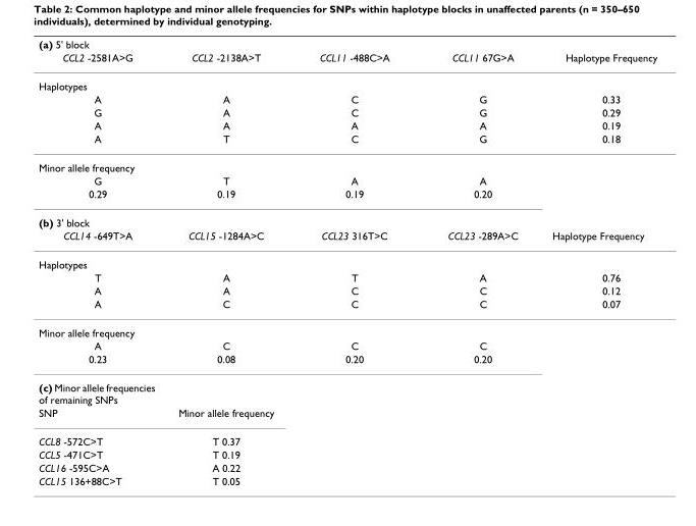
<table><thead><tr><td colspan="5">(a) 5&#x27; block</td></tr><tr><td>CCL2 -2581A&gt;G</td><td>CCL2 -2138A&gt;T</td><td>CCL11 -488C&gt;A</td><td>CCL11 67G&gt;A</td><td>Haplotype Frequency</td></tr></thead><tbody><tr><td colspan="5">Haplotypes</td></tr><tr><td>A</td><td>A</td><td>C</td><td>G</td><td>0.33</td></tr><tr><td>G</td><td>A</td><td>C</td><td>G</td><td>0.29</td></tr><tr><td>A</td><td>A</td><td>A</td><td>A</td><td>0.19</td></tr><tr><td>A</td><td>T</td><td>C</td><td>G</td><td>0.18</td></tr><tr><td colspan="5">Minor allele frequency</td></tr><tr><td>G</td><td>T</td><td>A</td><td>A</td><td></td></tr><tr><td>0.29</td><td>0.19</td><td>0.19</td><td>0.20</td><td></td></tr><tr><td colspan="5">(b) 3&#x27; block</td></tr><tr><td>CCL14 -649T&gt;A</td><td>CCL15 -1284A&gt;C</td><td>CCL23 316T&gt;C</td><td>CCL23 -289A&gt;C</td><td>Haplotype Frequency</td></tr><tr><td colspan="5">Haplotypes</td></tr><tr><td>T</td><td>A</td><td>T</td><td>A</td><td>0.76</td></tr><tr><td>A</td><td>A</td><td>C</td><td>C</td><td>0.12</td></tr><tr><td>A</td><td>C</td><td>C</td><td>C</td><td>0.07</td></tr><tr><td colspan="5">Minor allele frequency</td></tr><tr><td>A</td><td>C</td><td>C</td><td>C</td><td></td></tr><tr><td>0.23</td><td>0.08</td><td>0.20</td><td>0.20</td><td></td></tr><tr><td colspan="5">(c) Minor allele frequencies of remaining SNPs</td></tr><tr><td>SNP</td><td>Minor allele frequency</td><td></td><td></td><td></td></tr><tr><td>CCL8 -572C&gt;T</td><td>T 0.37</td><td></td><td></td><td></td></tr><tr><td>CCL5 -471C&gt;T</td><td>T 0.19</td><td></td><td></td><td></td></tr><tr><td>CCL16 -595C&gt;A</td><td>A 0.22</td><td></td><td></td><td></td></tr><tr><td>CCL15 136+88C&gt;T</td><td>T 0.05</td><td></td><td></td><td></td></tr></tbody></table>